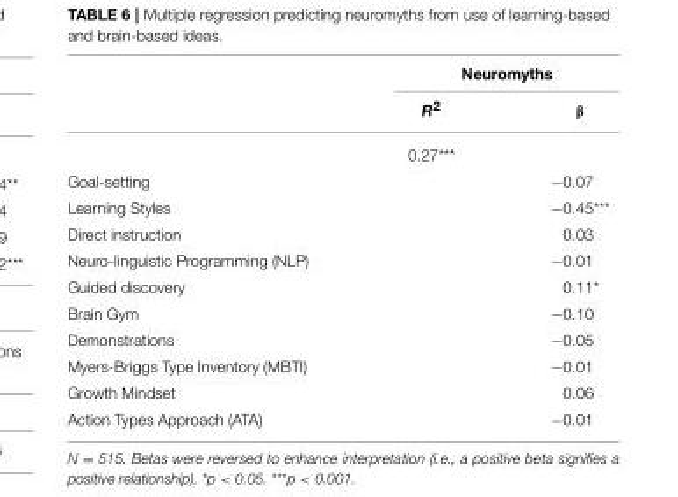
<table><thead><tr><td rowspan="2"></td><td colspan="2">Neuromyths</td></tr><tr><td>R<sup>2</sup></td><td>β</td></tr></thead><tbody><tr><td></td><td>0.27***</td><td></td></tr><tr><td>Goal-setting</td><td></td><td>−0.07</td></tr><tr><td>Learning Styles</td><td></td><td>−0.45***</td></tr><tr><td>Direct instruction</td><td></td><td>0.03</td></tr><tr><td>Neuro-linguistic Programming (NLP)</td><td></td><td>−0.01</td></tr><tr><td>Guided discovery</td><td></td><td>0.11*</td></tr><tr><td>Brain Gym</td><td></td><td>−0.10</td></tr><tr><td>Demonstrations</td><td></td><td>−0.05</td></tr><tr><td>Myers-Briggs Type Inventory (MBTI)</td><td></td><td>−0.01</td></tr><tr><td>Growth Mindset</td><td></td><td>0.06</td></tr><tr><td>Action Types Approach (ATA)</td><td></td><td>−0.01</td></tr></tbody></table>